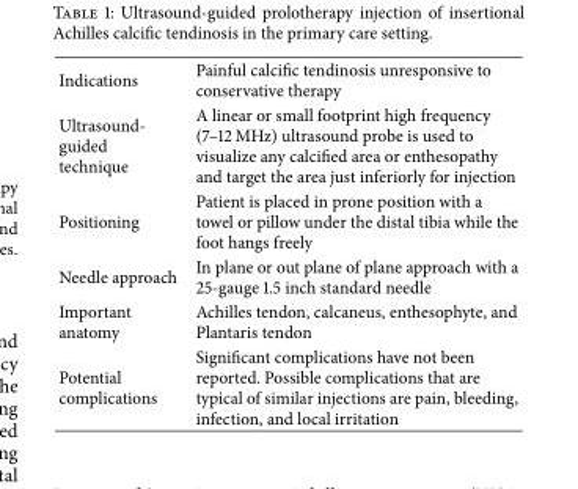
<table><tbody><tr><td>Indications</td><td>Painful calcific tendinosis unresponsive to conservative therapy</td></tr><tr><td>Ultrasound- guided technique</td><td>A linear or small footprint high frequency (7–12 MHz) ultrasound probe is used to visualize any calcified area or enthesopathy and target the area just inferiorly for injection</td></tr><tr><td>Positioning</td><td>Patient is placed in prone position with a towel or pillow under the distal tibia while the foot hangs freely</td></tr><tr><td>Needle approach</td><td>In plane or out plane of plane approach with a 25-gauge 1.5 inch standard needle</td></tr><tr><td>Important anatomy</td><td>Achilles tendon, calcaneus, enthesophyte, and Plantaris tendon</td></tr><tr><td>Potential complications</td><td>Significant complications have not been reported. Possible complications that are typical of similar injections are pain, bleeding, infection, and local irritation</td></tr></tbody></table>